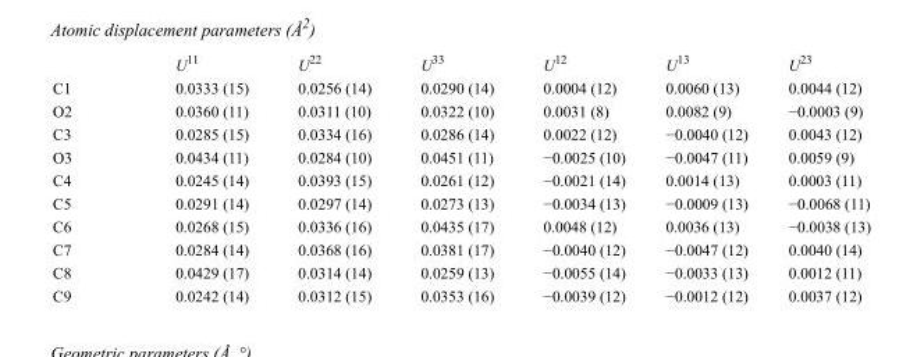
<table><thead><tr><td></td><td>U<sup>11</sup></td><td>U<sup>22</sup></td><td>U<sup>33</sup></td><td>U<sup>12</sup></td><td>U<sup>13</sup></td><td>U<sup>23</sup></td></tr></thead><tbody><tr><td>C1</td><td>0.0333 (15)</td><td>0.0256 (14)</td><td>0.0290 (14)</td><td>0.0004 (12)</td><td>0.0060 (13)</td><td>0.0044 (12)</td></tr><tr><td>O2</td><td>0.0360 (11)</td><td>0.0311 (10)</td><td>0.0322 (10)</td><td>0.0031 (8)</td><td>0.0082 (9)</td><td>−0.0003 (9)</td></tr><tr><td>C3</td><td>0.0285 (15)</td><td>0.0334 (16)</td><td>0.0286 (14)</td><td>0.0022 (12)</td><td>−0.0040 (12)</td><td>0.0043 (12)</td></tr><tr><td>O3</td><td>0.0434 (11)</td><td>0.0284 (10)</td><td>0.0451 (11)</td><td>−0.0025 (10)</td><td>−0.0047 (11)</td><td>0.0059 (9)</td></tr><tr><td>C4</td><td>0.0245 (14)</td><td>0.0393 (15)</td><td>0.0261 (12)</td><td>−0.0021 (14)</td><td>0.0014 (13)</td><td>0.0003 (11)</td></tr><tr><td>C5</td><td>0.0291 (14)</td><td>0.0297 (14)</td><td>0.0273 (13)</td><td>−0.0034 (13)</td><td>−0.0009 (13)</td><td>−0.0068 (11)</td></tr><tr><td>C6</td><td>0.0268 (15)</td><td>0.0336 (16)</td><td>0.0435 (17)</td><td>0.0048 (12)</td><td>0.0036 (13)</td><td>−0.0038 (13)</td></tr><tr><td>C7</td><td>0.0284 (14)</td><td>0.0368 (16)</td><td>0.0381 (17)</td><td>−0.0040 (12)</td><td>−0.0047 (12)</td><td>0.0040 (14)</td></tr><tr><td>C8</td><td>0.0429 (17)</td><td>0.0314 (14)</td><td>0.0259 (13)</td><td>−0.0055 (14)</td><td>−0.0033 (13)</td><td>0.0012 (11)</td></tr><tr><td>C9</td><td>0.0242 (14)</td><td>0.0312 (15)</td><td>0.0353 (16)</td><td>−0.0039 (12)</td><td>−0.0012 (12)</td><td>0.0037 (12)</td></tr></tbody></table>